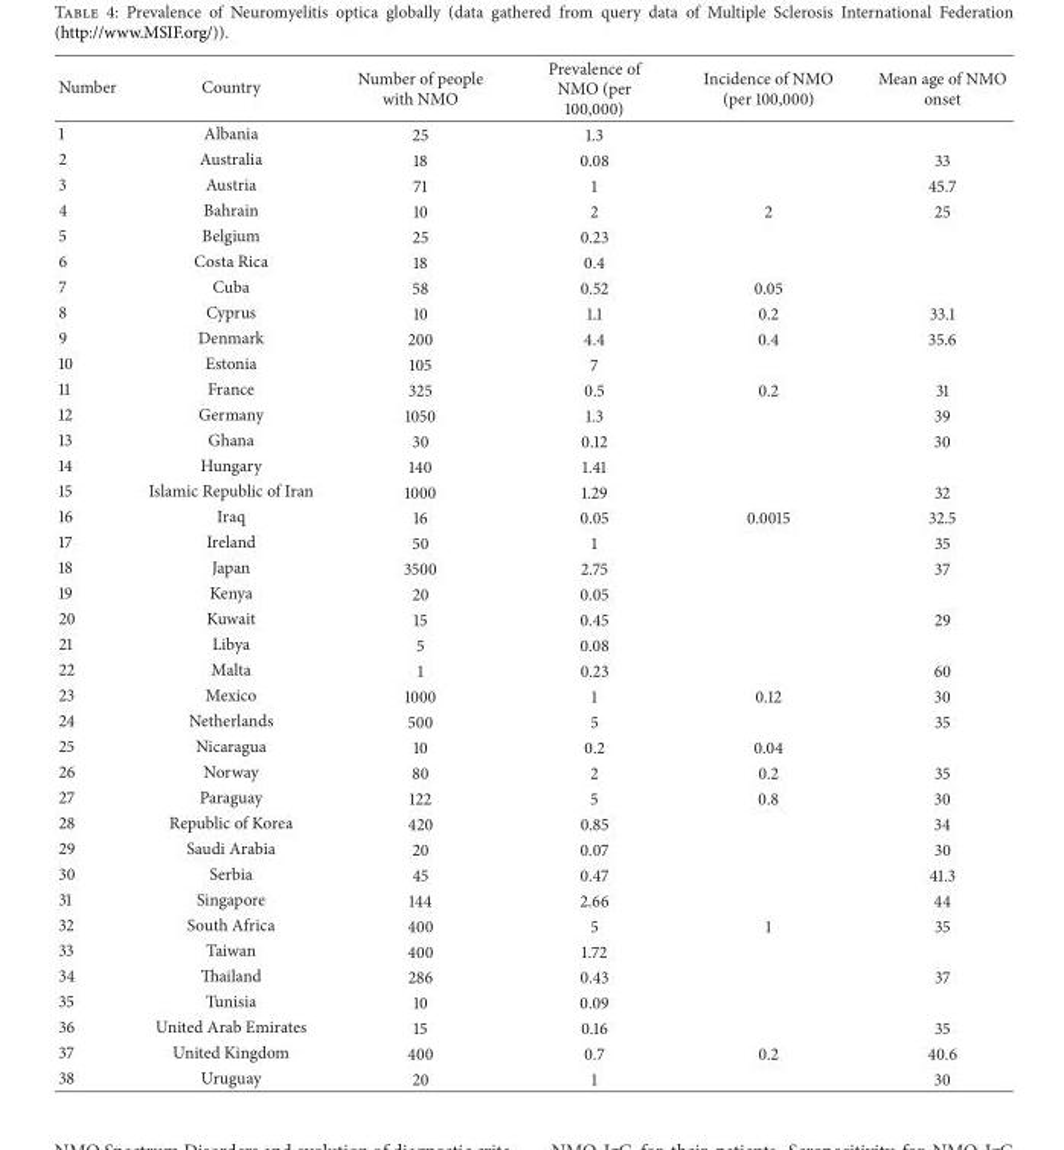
<table><thead><tr><td>Number</td><td>Country</td><td>Number of people with NMO</td><td>Prevalence of NMO (per 100,000)</td><td>Incidence of NMO (per 100,000)</td><td>Mean age of NMO onset</td></tr></thead><tbody><tr><td>1</td><td>Albania</td><td>25</td><td>1.3</td><td></td><td></td></tr><tr><td>2</td><td>Australia</td><td>18</td><td>0.08</td><td></td><td>33</td></tr><tr><td>3</td><td>Austria</td><td>71</td><td>1</td><td></td><td>45.7</td></tr><tr><td>4</td><td>Bahrain</td><td>10</td><td>2</td><td>2</td><td>25</td></tr><tr><td>5</td><td>Belgium</td><td>25</td><td>0.23</td><td></td><td></td></tr><tr><td>6</td><td>Costa Rica</td><td>18</td><td>0.4</td><td></td><td></td></tr><tr><td>7</td><td>Cuba</td><td>58</td><td>0.52</td><td>0.05</td><td></td></tr><tr><td>8</td><td>Cyprus</td><td>10</td><td>1.1</td><td>0.2</td><td>33.1</td></tr><tr><td>9</td><td>Denmark</td><td>200</td><td>4.4</td><td>0.4</td><td>35.6</td></tr><tr><td>10</td><td>Estonia</td><td>105</td><td>7</td><td></td><td></td></tr><tr><td>11</td><td>France</td><td>325</td><td>0.5</td><td>0.2</td><td>31</td></tr><tr><td>12</td><td>Germany</td><td>1050</td><td>1.3</td><td></td><td>39</td></tr><tr><td>13</td><td>Ghana</td><td>30</td><td>0.12</td><td></td><td>30</td></tr><tr><td>14</td><td>Hungary</td><td>140</td><td>1.41</td><td></td><td></td></tr><tr><td>15</td><td>Islamic Republic of Iran</td><td>1000</td><td>1.29</td><td></td><td>32</td></tr><tr><td>16</td><td>Iraq</td><td>16</td><td>0.05</td><td>0.0015</td><td>32.5</td></tr><tr><td>17</td><td>Ireland</td><td>50</td><td>1</td><td></td><td>35</td></tr><tr><td>18</td><td>Japan</td><td>3500</td><td>2.75</td><td></td><td>37</td></tr><tr><td>19</td><td>Kenya</td><td>20</td><td>0.05</td><td></td><td></td></tr><tr><td>20</td><td>Kuwait</td><td>15</td><td>0.45</td><td></td><td>29</td></tr><tr><td>21</td><td>Libya</td><td>5</td><td>0.08</td><td></td><td></td></tr><tr><td>22</td><td>Malta</td><td>1</td><td>0.23</td><td></td><td>60</td></tr><tr><td>23</td><td>Mexico</td><td>1000</td><td>1</td><td>0.12</td><td>30</td></tr><tr><td>24</td><td>Netherlands</td><td>500</td><td>5</td><td></td><td>35</td></tr><tr><td>25</td><td>Nicaragua</td><td>10</td><td>0.2</td><td>0.04</td><td></td></tr><tr><td>26</td><td>Norway</td><td>80</td><td>2</td><td>0.2</td><td>35</td></tr><tr><td>27</td><td>Paraguay</td><td>122</td><td>5</td><td>0.8</td><td>30</td></tr><tr><td>28</td><td>Republic of Korea</td><td>420</td><td>0.85</td><td></td><td>34</td></tr><tr><td>29</td><td>Saudi Arabia</td><td>20</td><td>0.07</td><td></td><td>30</td></tr><tr><td>30</td><td>Serbia</td><td>45</td><td>0.47</td><td></td><td>41.3</td></tr><tr><td>31</td><td>Singapore</td><td>144</td><td>2.66</td><td></td><td>44</td></tr><tr><td>32</td><td>South Africa</td><td>400</td><td>5</td><td>1</td><td>35</td></tr><tr><td>33</td><td>Taiwan</td><td>400</td><td>1.72</td><td></td><td></td></tr><tr><td>34</td><td>Thailand</td><td>286</td><td>0.43</td><td></td><td>37</td></tr><tr><td>35</td><td>Tunisia</td><td>10</td><td>0.09</td><td></td><td></td></tr><tr><td>36</td><td>United Arab Emirates</td><td>15</td><td>0.16</td><td></td><td>35</td></tr><tr><td>37</td><td>United Kingdom</td><td>400</td><td>0.7</td><td>0.2</td><td>40.6</td></tr><tr><td>38</td><td>Uruguay</td><td>20</td><td>1</td><td></td><td>30</td></tr></tbody></table>